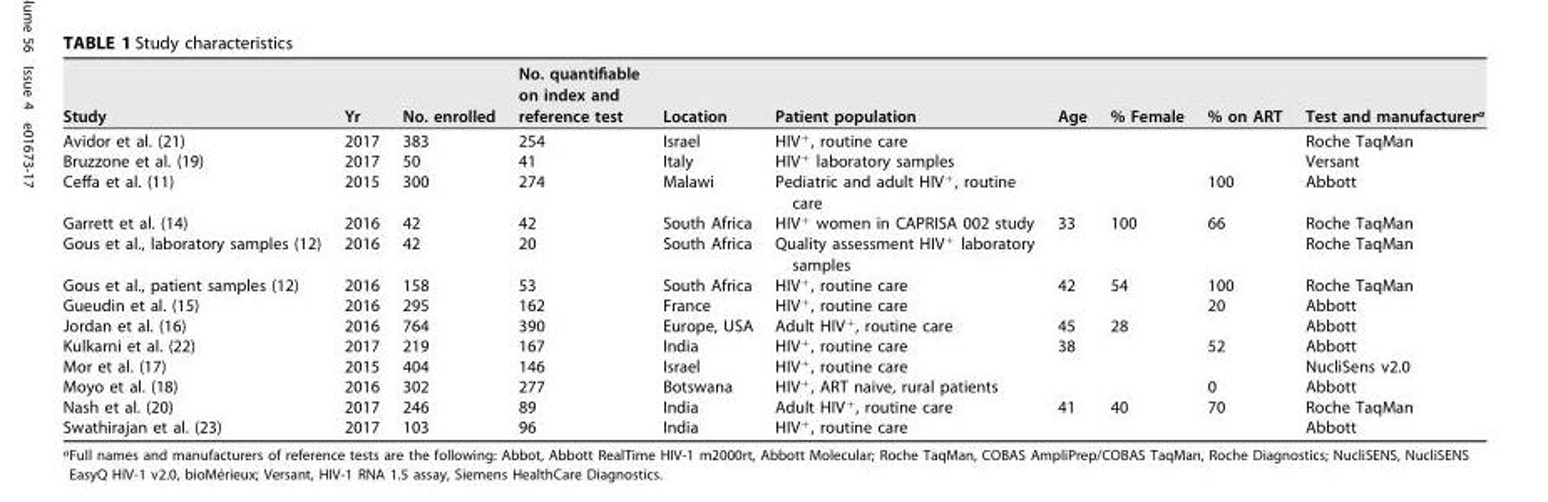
<table><thead><tr><td>Study</td><td>Yr</td><td>No. enrolled</td><td>No. quantifiable on index and reference test</td><td>Location</td><td>Patient population</td><td>Age</td><td>% Female</td><td>% on ART</td><td>Test and manufacturer<sup>a</sup></td></tr></thead><tbody><tr><td>Avidor et al. (21)</td><td>2017</td><td>383</td><td>254</td><td>Israel</td><td>HIV<sup>+</sup>, routine care</td><td></td><td></td><td></td><td>Roche TaqMan</td></tr><tr><td>Bruzzone et al. (19)</td><td>2017</td><td>50</td><td>41</td><td>Italy</td><td>HIV<sup>+</sup> laboratory samples</td><td></td><td></td><td></td><td>Versant</td></tr><tr><td>Ceffa et al. (11)</td><td>2015</td><td>300</td><td>274</td><td>Malawi</td><td>Pediatric and adult HIV<sup>+</sup>, routine care</td><td></td><td></td><td>100</td><td>Abbott</td></tr><tr><td>Garrett et al. (14)</td><td>2016</td><td>42</td><td>42</td><td>South Africa</td><td>HIV<sup>+</sup> women in CAPRISA 002 study</td><td>33</td><td>100</td><td>66</td><td>Roche TaqMan</td></tr><tr><td>Gous et al., laboratory samples (12)</td><td>2016</td><td>42</td><td>20</td><td>South Africa</td><td>Quality assessment HIV<sup>+</sup> laboratory samples</td><td></td><td></td><td></td><td>Roche TaqMan</td></tr><tr><td>Gous et al., patient samples (12)</td><td>2016</td><td>158</td><td>53</td><td>South Africa</td><td>HIV<sup>+</sup>, routine care</td><td>42</td><td>54</td><td>100</td><td>Roche TaqMan</td></tr><tr><td>Gueudin et al. (15)</td><td>2016</td><td>295</td><td>162</td><td>France</td><td>HIV<sup>+</sup>, routine care</td><td></td><td></td><td>20</td><td>Abbott</td></tr><tr><td>Jordan et al. (16)</td><td>2016</td><td>764</td><td>390</td><td>Europe, USA</td><td>Adult HIV<sup>+</sup>, routine care</td><td>45</td><td>28</td><td></td><td>Abbott</td></tr><tr><td>Kulkarni et al. (22)</td><td>2017</td><td>219</td><td>167</td><td>India</td><td>HIV<sup>+</sup>, routine care</td><td>38</td><td></td><td>52</td><td>Abbott</td></tr><tr><td>Mor et al. (17)</td><td>2015</td><td>404</td><td>146</td><td>Israel</td><td>HIV<sup>+</sup>, routine care</td><td></td><td></td><td></td><td>NucliSens v2.0</td></tr><tr><td>Moyo et al. (18)</td><td>2016</td><td>302</td><td>277</td><td>Botswana</td><td>HIV<sup>+</sup>, ART naive, rural patients</td><td></td><td></td><td>0</td><td>Abbott</td></tr><tr><td>Nash et al. (20)</td><td>2017</td><td>246</td><td>89</td><td>India</td><td>Adult HIV<sup>+</sup>, routine care</td><td>41</td><td>40</td><td>70</td><td>Roche TaqMan</td></tr><tr><td>Swathirajan et al. (23)</td><td>2017</td><td>103</td><td>96</td><td>India</td><td>HIV<sup>+</sup>, routine care</td><td></td><td></td><td></td><td>Abbott</td></tr></tbody></table>